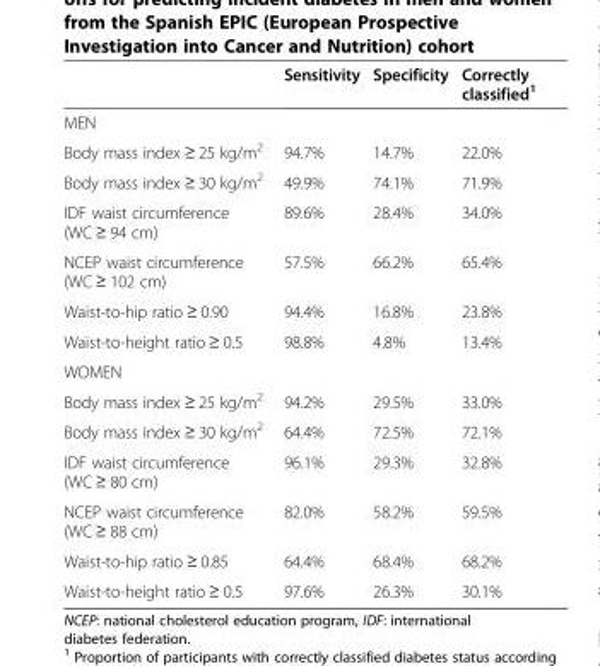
<table><thead><tr><td></td><td>Sensitivity</td><td>Specificity</td><td>Correctly classified<sup>1</sup></td></tr></thead><tbody><tr><td colspan="4">MEN</td></tr><tr><td>Body mass index ≥ 25 kg/m<sup>2</sup></td><td>94.7%</td><td>14.7%</td><td>22.0%</td></tr><tr><td>Body mass index ≥ 30 kg/m<sup>2</sup></td><td>49.9%</td><td>74.1%</td><td>71.9%</td></tr><tr><td>IDF waist circumference (WC ≥ 94 cm)</td><td>89.6%</td><td>28.4%</td><td>34.0%</td></tr><tr><td>NCEP waist circumference (WC ≥ 102 cm)</td><td>57.5%</td><td>66.2%</td><td>65.4%</td></tr><tr><td>Waist-to-hip ratio ≥ 0.90</td><td>94.4%</td><td>16.8%</td><td>23.8%</td></tr><tr><td>Waist-to-height ratio ≥ 0.5</td><td>98.8%</td><td>4.8%</td><td>13.4%</td></tr><tr><td colspan="4">WOMEN</td></tr><tr><td>Body mass index ≥ 25 kg/m<sup>2</sup></td><td>94.2%</td><td>29.5%</td><td>33.0%</td></tr><tr><td>Body mass index ≥ 30 kg/m<sup>2</sup></td><td>64.4%</td><td>72.5%</td><td>72.1%</td></tr><tr><td>IDF waist circumference (WC ≥ 80 cm)</td><td>96.1%</td><td>29.3%</td><td>32.8%</td></tr><tr><td>NCEP waist circumference (WC ≥ 88 cm)</td><td>82.0%</td><td>58.2%</td><td>59.5%</td></tr><tr><td>Waist-to-hip ratio ≥ 0.85</td><td>64.4%</td><td>68.4%</td><td>68.2%</td></tr><tr><td>Waist-to-height ratio ≥ 0.5</td><td>97.6%</td><td>26.3%</td><td>30.1%</td></tr></tbody></table>